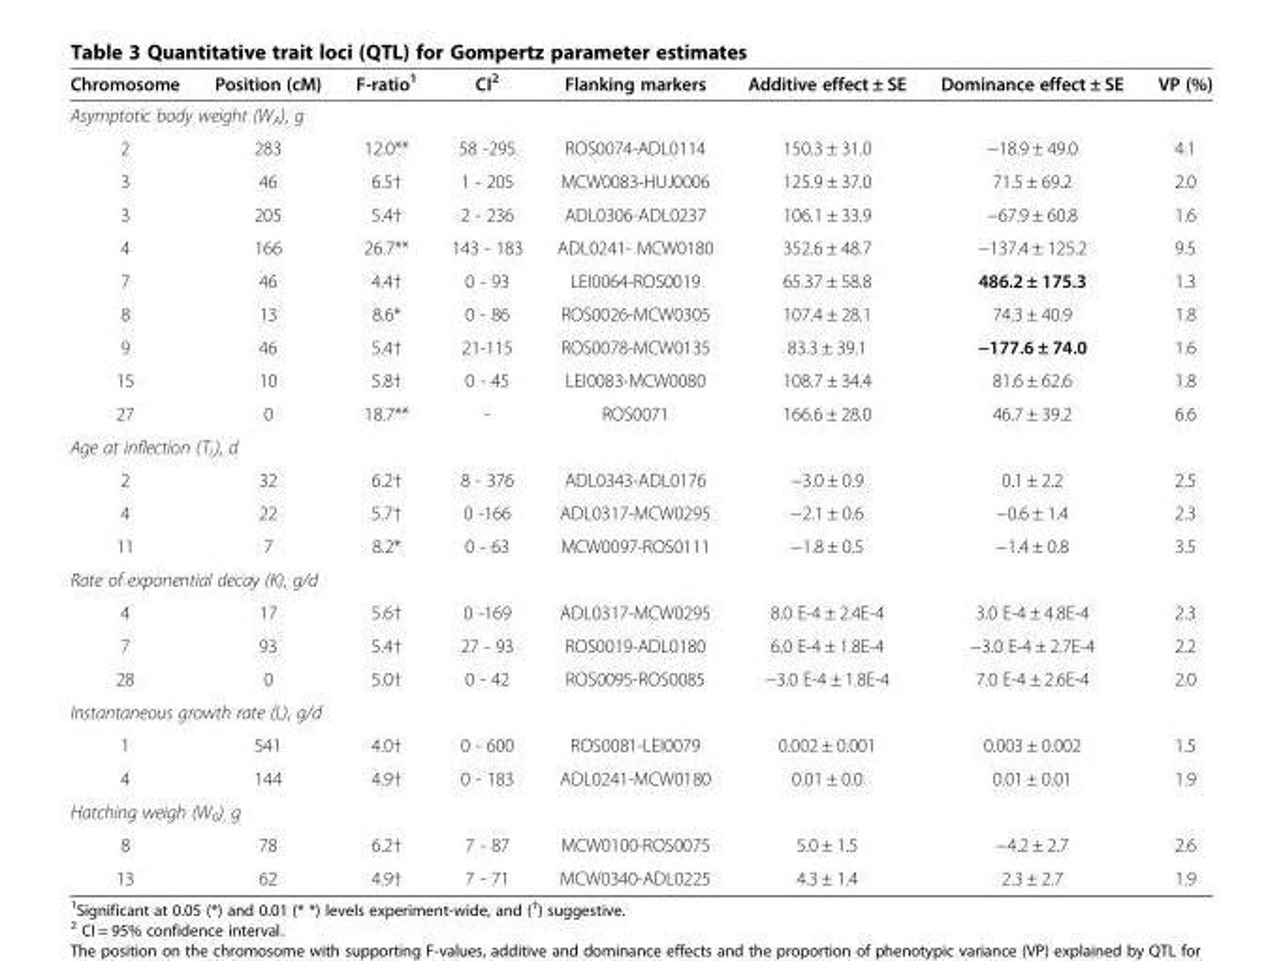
<table><thead><tr><td>Chromosome</td><td>Position (cM)</td><td>F-ratio<sup>1</sup></td><td>CI<sup>2</sup></td><td>Flanking markers</td><td>Additive effect ± SE</td><td>Dominance effect ± SE</td><td>VP (%)</td></tr></thead><tbody><tr><td colspan="8">Asymptotic body weight (W<sub>A</sub>), g</td></tr><tr><td>2</td><td>283</td><td>12.0**</td><td>58 -295</td><td>ROS0074-ADL0114</td><td>150.3 ± 31.0</td><td>−18.9 ± 49.0</td><td>4.1</td></tr><tr><td>3</td><td>46</td><td>6.5†</td><td>1 - 205</td><td>MCW0083-HUJ0006</td><td>125.9 ± 37.0</td><td>71.5 ± 69.2</td><td>2.0</td></tr><tr><td>3</td><td>205</td><td>5.4†</td><td>2 - 236</td><td>ADL0306-ADL0237</td><td>106.1 ± 33.9</td><td>−67.9 ± 60.8</td><td>1.6</td></tr><tr><td>4</td><td>166</td><td>26.7**</td><td>143 - 183</td><td>ADL0241- MCW0180</td><td>352.6 ± 48.7</td><td>−137.4 ± 125.2</td><td>9.5</td></tr><tr><td>7</td><td>46</td><td>4.4†</td><td>0 - 93</td><td>LEI0064-ROS0019</td><td>65.37 ± 58.8</td><td>486.2 ± 175.3</td><td>1.3</td></tr><tr><td>8</td><td>13</td><td>8.6*</td><td>0 - 86</td><td>ROS0026-MCW0305</td><td>107.4 ± 28.1</td><td>74.3 ± 40.9</td><td>1.8</td></tr><tr><td>9</td><td>46</td><td>5.4†</td><td>21-115</td><td>ROS0078-MCW0135</td><td>83.3 ± 39.1</td><td>−177.6 ± 74.0</td><td>1.6</td></tr><tr><td>15</td><td>10</td><td>5.8†</td><td>0 - 45</td><td>LEI0083-MCW0080</td><td>108.7 ± 34.4</td><td>81.6 ± 62.6</td><td>1.8</td></tr><tr><td>27</td><td>0</td><td>18.7**</td><td>-</td><td>ROS0071</td><td>166.6 ± 28.0</td><td>46.7 ± 39.2</td><td>6.6</td></tr><tr><td colspan="8">Age at inflection (T<sub>i,</sub>), d</td></tr><tr><td>2</td><td>32</td><td>6.2†</td><td>8 - 376</td><td>ADL0343-ADL0176</td><td>−3.0 ± 0.9</td><td>0.1 ± 2.2</td><td>2.5</td></tr><tr><td>4</td><td>22</td><td>5.7†</td><td>0 -166</td><td>ADL0317-MCW0295</td><td>−2.1 ± 0.6</td><td>−0.6 ± 1.4</td><td>2.3</td></tr><tr><td>11</td><td>7</td><td>8.2*</td><td>0 - 63</td><td>MCW0097-ROS0111</td><td>−1.8 ± 0.5</td><td>−1.4 ± 0.8</td><td>3.5</td></tr><tr><td colspan="8">Rate of exponential decay (K), g/d</td></tr><tr><td>4</td><td>17</td><td>5.6†</td><td>0 -169</td><td>ADL0317-MCW0295</td><td>8.0 E-4 ± 2.4E-4</td><td>3.0 E-4 ± 4.8E-4</td><td>2.3</td></tr><tr><td>7</td><td>93</td><td>5.4†</td><td>27 - 93</td><td>ROS0019-ADL0180</td><td>6.0 E-4 ± 1.8E-4</td><td>−3.0 E-4 ± 2.7E-4</td><td>2.2</td></tr><tr><td>28</td><td>0</td><td>5.0†</td><td>0 - 42</td><td>ROS0095-ROS0085</td><td>−3.0 E-4 ± 1.8E-4</td><td>7.0 E-4 ± 2.6E-4</td><td>2.0</td></tr><tr><td colspan="8">Instantaneous growth rate (L), g/d</td></tr><tr><td>1</td><td>541</td><td>4.0†</td><td>0 - 600</td><td>ROS0081-LEI0079</td><td>0.002 ± 0.001</td><td>0.003 ± 0.002</td><td>1.5</td></tr><tr><td>4</td><td>144</td><td>4.9†</td><td>0 - 183</td><td>ADL0241-MCW0180</td><td>0.01 ± 0.0</td><td>0.01 ± 0.01</td><td>1.9</td></tr><tr><td colspan="8">Hatching weigh (W<sub>0</sub>)<sub>,</sub> g</td></tr><tr><td>8</td><td>78</td><td>6.2†</td><td>7 - 87</td><td>MCW0100-ROS0075</td><td>5.0 ± 1.5</td><td>−4.2 ± 2.7</td><td>2.6</td></tr><tr><td>13</td><td>62</td><td>4.9†</td><td>7 - 71</td><td>MCW0340-ADL0225</td><td>4.3 ± 1.4</td><td>2.3 ± 2.7</td><td>1.9</td></tr></tbody></table>